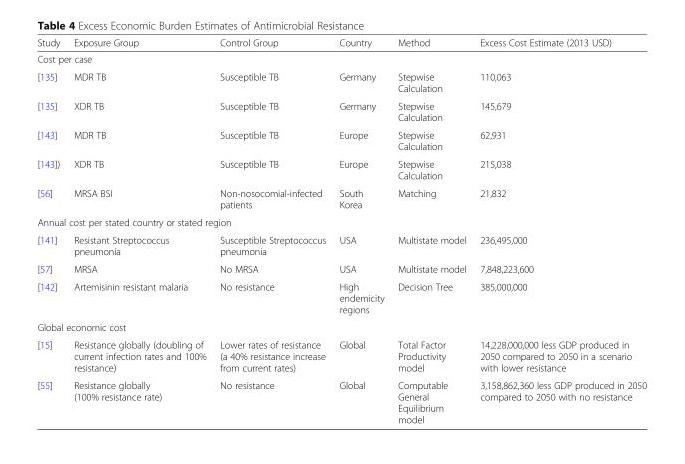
<table><thead><tr><td>Study</td><td>Exposure Group</td><td>Control Group</td><td>Country</td><td>Method</td><td>Excess Cost Estimate (2013 USD)</td></tr></thead><tbody><tr><td colspan="6">Cost per case</td></tr><tr><td>[135]</td><td>MDR TB</td><td>Susceptible TB</td><td>Germany</td><td>Stepwise Calculation</td><td>110,063</td></tr><tr><td>[135]</td><td>XDR TB</td><td>Susceptible TB</td><td>Germany</td><td>Stepwise Calculation</td><td>145,679</td></tr><tr><td>[143]</td><td>MDR TB</td><td>Susceptible TB</td><td>Europe</td><td>Stepwise Calculation</td><td>62,931</td></tr><tr><td>[143])</td><td>XDR TB</td><td>Susceptible TB</td><td>Europe</td><td>Stepwise Calculation</td><td>215,038</td></tr><tr><td>[56]</td><td>MRSA BSI</td><td>Non-nosocomial-infected patients</td><td>South Korea</td><td>Matching</td><td>21,832</td></tr><tr><td colspan="6">Annual cost per stated country or stated region</td></tr><tr><td>[141]</td><td>Resistant Streptococcus pneumonia</td><td>Susceptible Streptococcus pneumonia</td><td>USA</td><td>Multistate model</td><td>236,495,000</td></tr><tr><td>[57]</td><td>MRSA</td><td>No MRSA</td><td>USA</td><td>Multistate model</td><td>7,848,223,600</td></tr><tr><td>[142]</td><td>Artemisinin resistant malaria</td><td>No resistance</td><td>High endemicity regions</td><td>Decision Tree</td><td>385,000,000</td></tr><tr><td colspan="6">Global economic cost</td></tr><tr><td>[15]</td><td>Resistance globally (doubling of current infection rates and 100% resistance)</td><td>Lower rates of resistance (a 40% resistance increase from current rates)</td><td>Global</td><td>Total Factor Productivity model</td><td>14,228,000,000 less GDP produced in 2050 compared to 2050 in a scenario with lower resistance</td></tr><tr><td>[55]</td><td>Resistance globally (100% resistance rate)</td><td>No resistance</td><td>Global</td><td>Computable General Equilibrium model</td><td>3,158,862,360 less GDP produced in 2050 compared to 2050 with no resistance</td></tr></tbody></table>